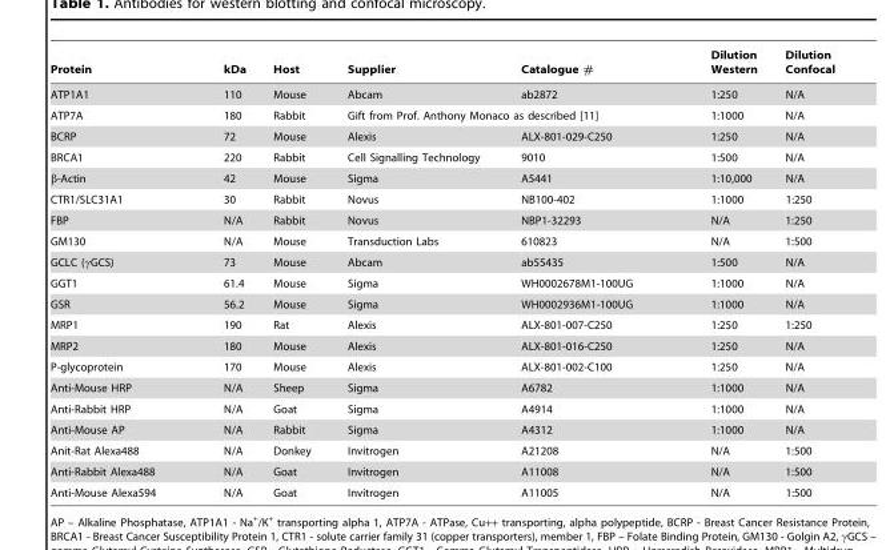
<table><thead><tr><td>Protein</td><td>kDa</td><td>Host</td><td>Supplier</td><td>Catalogue #</td><td>Dilution Western</td><td>Dilution Confocal</td></tr></thead><tbody><tr><td>ATP1A1</td><td>110</td><td>Mouse</td><td>Abcam</td><td>ab2872</td><td>1:250</td><td>N/A</td></tr><tr><td>ATP7A</td><td>180</td><td>Rabbit</td><td colspan="2">Gift from Prof. Anthony Monaco as described [11]</td><td>1:1000</td><td>N/A</td></tr><tr><td>BCRP</td><td>72</td><td>Mouse</td><td>Alexis</td><td>ALX-801-029-C250</td><td>1:250</td><td>N/A</td></tr><tr><td>BRCA1</td><td>220</td><td>Rabbit</td><td>Cell Signalling Technology</td><td>9010</td><td>1:500</td><td>N/A</td></tr><tr><td>β-Actin</td><td>42</td><td>Mouse</td><td>Sigma</td><td>A5441</td><td>1:10,000</td><td>N/A</td></tr><tr><td>CTR1/SLC31A1</td><td>30</td><td>Rabbit</td><td>Novus</td><td>NB100-402</td><td>1:1000</td><td>1:250</td></tr><tr><td>FBP</td><td>N/A</td><td>Rabbit</td><td>Novus</td><td>NBP1-32293</td><td>N/A</td><td>1:250</td></tr><tr><td>GM130</td><td>N/A</td><td>Mouse</td><td>Transduction Labs</td><td>610823</td><td>N/A</td><td>1:500</td></tr><tr><td>GCLC (γGCS)</td><td>73</td><td>Mouse</td><td>Abcam</td><td>ab55435</td><td>1:500</td><td>N/A</td></tr><tr><td>GGT1</td><td>61.4</td><td>Mouse</td><td>Sigma</td><td>WH0002678M1-100UG</td><td>1:1000</td><td>N/A</td></tr><tr><td>GSR</td><td>56.2</td><td>Mouse</td><td>Sigma</td><td>WH0002936M1-100UG</td><td>1:1000</td><td>N/A</td></tr><tr><td>MRP1</td><td>190</td><td>Rat</td><td>Alexis</td><td>ALX-801-007-C250</td><td>1:250</td><td>1:250</td></tr><tr><td>MRP2</td><td>180</td><td>Mouse</td><td>Alexis</td><td>ALX-801-016-C250</td><td>1:250</td><td>N/A</td></tr><tr><td>P-glycoprotein</td><td>170</td><td>Mouse</td><td>Alexis</td><td>ALX-801-002-C100</td><td>1:250</td><td>N/A</td></tr><tr><td>Anti-Mouse HRP</td><td>N/A</td><td>Sheep</td><td>Sigma</td><td>A6782</td><td>1:1000</td><td>N/A</td></tr><tr><td>Anti-Rabbit HRP</td><td>N/A</td><td>Goat</td><td>Sigma</td><td>A4914</td><td>1:1000</td><td>N/A</td></tr><tr><td>Anti-Mouse AP</td><td>N/A</td><td>Rabbit</td><td>Sigma</td><td>A4312</td><td>1:1000</td><td>N/A</td></tr><tr><td>Anit-Rat Alexa488</td><td>N/A</td><td>Donkey</td><td>Invitrogen</td><td>A21208</td><td>N/A</td><td>1:500</td></tr><tr><td>Anti-Rabbit Alexa488</td><td>N/A</td><td>Goat</td><td>Invitrogen</td><td>A11008</td><td>N/A</td><td>1:500</td></tr><tr><td>Anti-Mouse Alexa594</td><td>N/A</td><td>Goat</td><td>Invitrogen</td><td>A11005</td><td>N/A</td><td>1:500</td></tr></tbody></table>